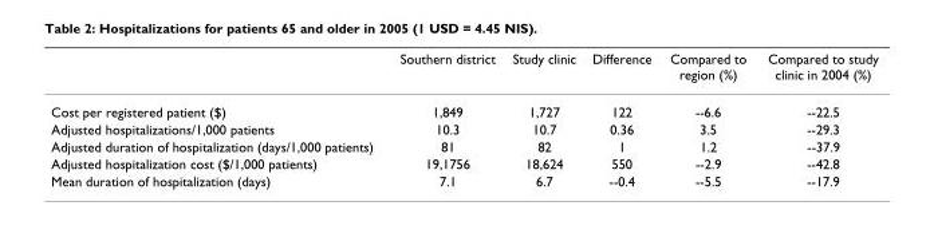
<table><thead><tr><td></td><td>Southern district</td><td>Study clinic</td><td>Difference</td><td>Compared to region (%)</td><td>Compared to study clinic in 2004 (%)</td></tr></thead><tbody><tr><td>Cost per registered patient ($)</td><td>1,849</td><td>1,727</td><td>122</td><td>--6.6</td><td>--22.5</td></tr><tr><td>Adjusted hospitalizations/1,000 patients</td><td>10.3</td><td>10.7</td><td>0.36</td><td>3.5</td><td>--29.3</td></tr><tr><td>Adjusted duration of hospitalization (days/1,000 patients)</td><td>81</td><td>82</td><td>1</td><td>1.2</td><td>--37.9</td></tr><tr><td>Adjusted hospitalization cost ($/1,000 patients)</td><td>19,1756</td><td>18,624</td><td>550</td><td>--2.9</td><td>--42.8</td></tr><tr><td>Mean duration of hospitalization (days)</td><td>7.1</td><td>6.7</td><td>--0.4</td><td>--5.5</td><td>--17.9</td></tr></tbody></table>